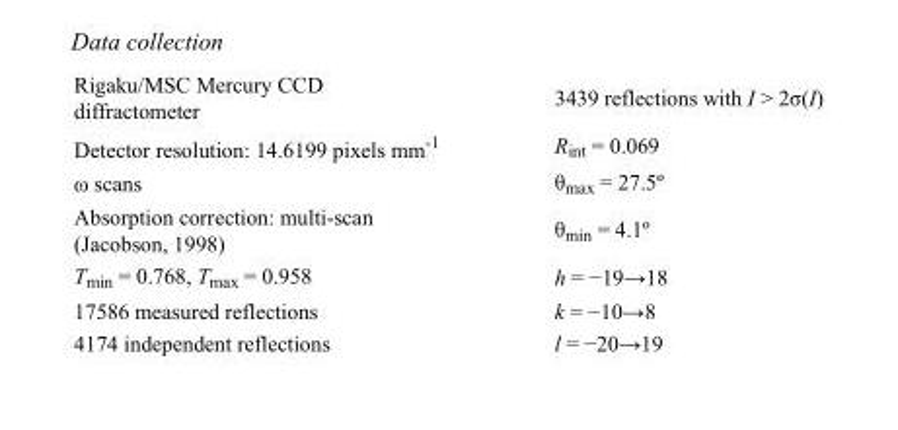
<table><tbody><tr><td>Rigaku/MSC Mercury CCD diffractometer</td><td>3439 reflections with I &gt; 2σ(I)</td></tr><tr><td>Detector resolution: 14.6199 pixels mm<sup>-1</sup></td><td>R<sub>int</sub> = 0.069</td></tr><tr><td>ω scans</td><td>θ<sub>max</sub> = 27.5º</td></tr><tr><td>Absorption correction: multi-scan (Jacobson, 1998)</td><td>θ<sub>min</sub> = 4.1º</td></tr><tr><td>T<sub>min</sub> = 0.768, T<sub>max</sub> = 0.958</td><td>h = −19→18</td></tr><tr><td>17586 measured reflections</td><td>k = −10→8</td></tr><tr><td>4174 independent reflections</td><td>l = −20→19</td></tr></tbody></table>